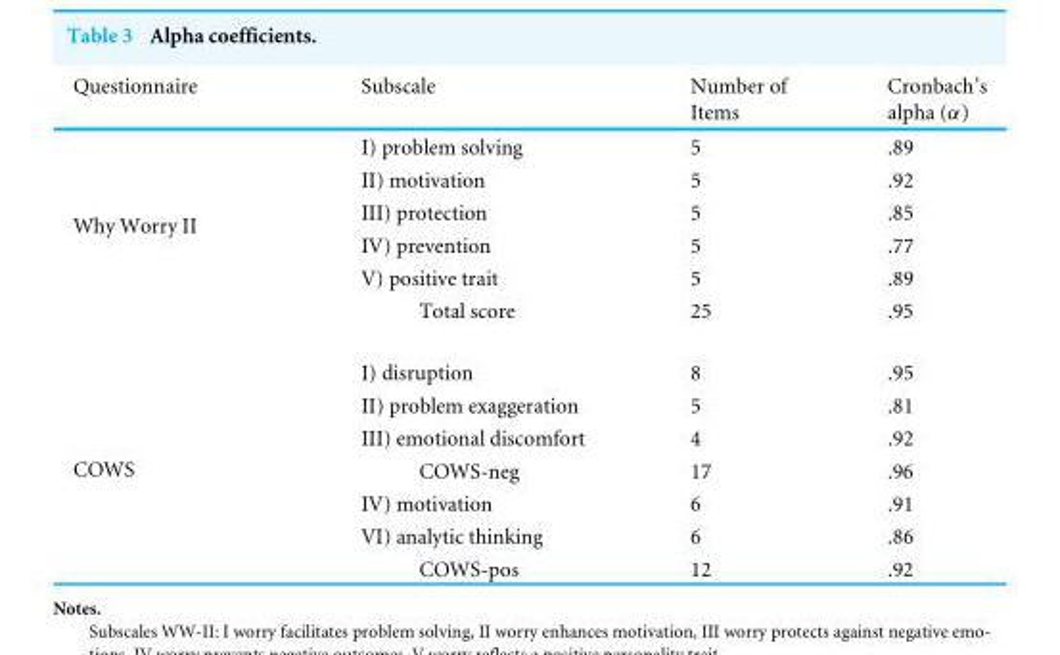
<table><thead><tr><td>Questionnaire</td><td>Subscale</td><td>Number of Items</td><td>Cronbach’s alpha (α)</td></tr></thead><tbody><tr><td rowspan="6">Why Worry II</td><td>I) problem solving</td><td>5</td><td>.89</td></tr><tr><td>II) motivation</td><td>5</td><td>.92</td></tr><tr><td>III) protection</td><td>5</td><td>.85</td></tr><tr><td>IV) prevention</td><td>5</td><td>.77</td></tr><tr><td>V) positive trait</td><td>5</td><td>.89</td></tr><tr><td>Total score</td><td>25</td><td>.95</td></tr><tr><td rowspan="7">COWS</td><td>I) disruption</td><td>8</td><td>.95</td></tr><tr><td>II) problem exaggeration</td><td>5</td><td>.81</td></tr><tr><td>III) emotional discomfort</td><td>4</td><td>.92</td></tr><tr><td>COWS-neg</td><td>17</td><td>.96</td></tr><tr><td>IV) motivation</td><td>6</td><td>.91</td></tr><tr><td>VI) analytic thinking</td><td>6</td><td>.86</td></tr><tr><td>COWS-pos</td><td>12</td><td>.92</td></tr></tbody></table>